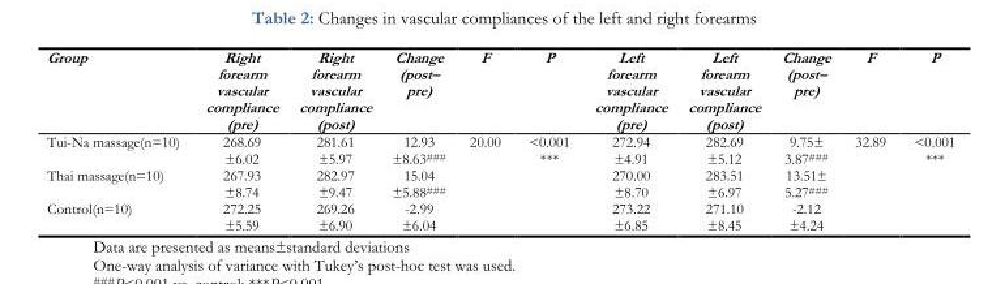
<table><thead><tr><td>Group</td><td>Right forearm vascular compliance (pre)</td><td>Right forearm vascular compliance (post)</td><td>Change (post– pre)</td><td>F</td><td>P</td><td>Left forearm vascular compliance (pre)</td><td>Left forearm vascular compliance (post)</td><td>Change (post– pre)</td><td>F</td><td>P</td></tr></thead><tbody><tr><td>Tui-Na massage(n=10)</td><td>268.69 ±6.02</td><td>281.61 ±5.97</td><td>12.93 ±8.63<sup>###</sup></td><td rowspan="3">20.00</td><td rowspan="3">&lt;0.001 ***</td><td>272.94 ±4.91</td><td>282.69 ±5.12</td><td>9.75± 3.87<sup>###</sup></td><td rowspan="3">32.89</td><td rowspan="3">&lt;0.001 ***</td></tr><tr><td>Thai massage(n=10)</td><td>267.93 ±8.74</td><td>282.97 ±9.47</td><td>15.04 ±5.88<sup>###</sup></td><td>270.00 ±8.70</td><td>283.51 ±6.97</td><td>13.51± 5.27<sup>###</sup></td></tr><tr><td>Control(n=10)</td><td>272.25 ±5.59</td><td>269.26 ±6.90</td><td>-2.99 ±6.04</td><td>273.22 ±6.85</td><td>271.10 ±8.45</td><td>-2.12 ±4.24</td></tr></tbody></table>